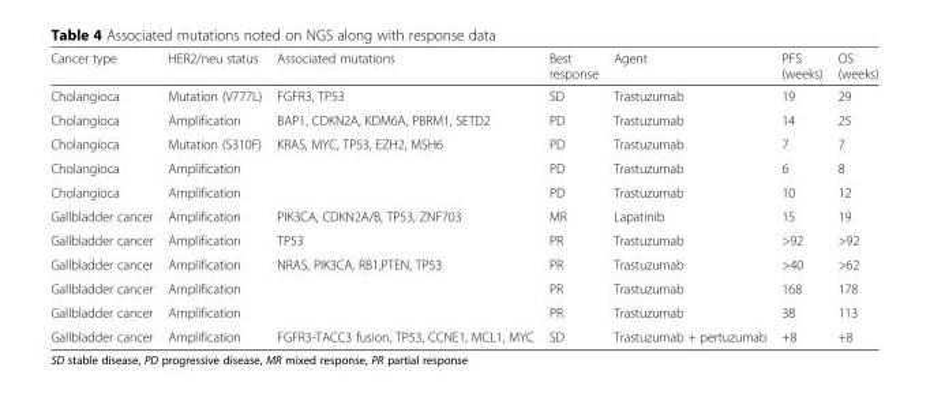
<table><thead><tr><td>Cancer type</td><td>HER2/neu status</td><td>Associated mutations</td><td>Best response</td><td>Agent</td><td>PFS (weeks)</td><td>OS (weeks)</td></tr></thead><tbody><tr><td>Cholangioca</td><td>Mutation (V777L)</td><td>FGFR3, TP53</td><td>SD</td><td>Trastuzumab</td><td>19</td><td>29</td></tr><tr><td>Cholangioca</td><td>Amplification</td><td>BAP1, CDKN2A, KDM6A, PBRM1, SETD2</td><td>PD</td><td>Trastuzumab</td><td>14</td><td>25</td></tr><tr><td>Cholangioca</td><td>Mutation (S310F)</td><td>KRAS, MYC, TP53, EZH2, MSH6</td><td>PD</td><td>Trastuzumab</td><td>7</td><td>7</td></tr><tr><td>Cholangioca</td><td>Amplification</td><td></td><td>PD</td><td>Trastuzumab</td><td>6</td><td>8</td></tr><tr><td>Cholangioca</td><td>Amplification</td><td></td><td>PD</td><td>Trastuzumab</td><td>10</td><td>12</td></tr><tr><td>Gallbladder cancer</td><td>Amplification</td><td>PIK3CA, CDKN2A/B, TP53, ZNF703</td><td>MR</td><td>Lapatinib</td><td>15</td><td>19</td></tr><tr><td>Gallbladder cancer</td><td>Amplification</td><td>TP53</td><td>PR</td><td>Trastuzumab</td><td>&gt;92</td><td>&gt;92</td></tr><tr><td>Gallbladder cancer</td><td>Amplification</td><td>NRAS, PIK3CA, RB1,PTEN, TP53</td><td>PR</td><td>Trastuzumab</td><td>&gt;40</td><td>&gt;62</td></tr><tr><td>Gallbladder cancer</td><td>Amplification</td><td></td><td>PR</td><td>Trastuzumab</td><td>168</td><td>178</td></tr><tr><td>Gallbladder cancer</td><td>Amplification</td><td></td><td>PR</td><td>Trastuzumab</td><td>38</td><td>113</td></tr><tr><td>Gallbladder cancer</td><td>Amplification</td><td>FGFR3-TACC3 fusion, TP53, CCNE1, MCL1, MYC</td><td>SD</td><td>Trastuzumab + pertuzumab</td><td>+8</td><td>+8</td></tr></tbody></table>